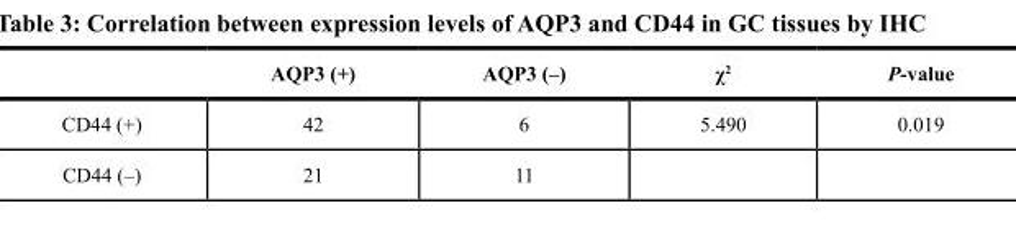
<table><thead><tr><td></td><td>AQP3 (+)</td><td>AQP3 (–)</td><td>χ<sup>2</sup></td><td>P-value</td></tr></thead><tbody><tr><td>CD44 (+)</td><td>42</td><td>6</td><td>5.490</td><td>0.019</td></tr><tr><td>CD44 (–)</td><td>21</td><td>11</td><td></td><td></td></tr></tbody></table>